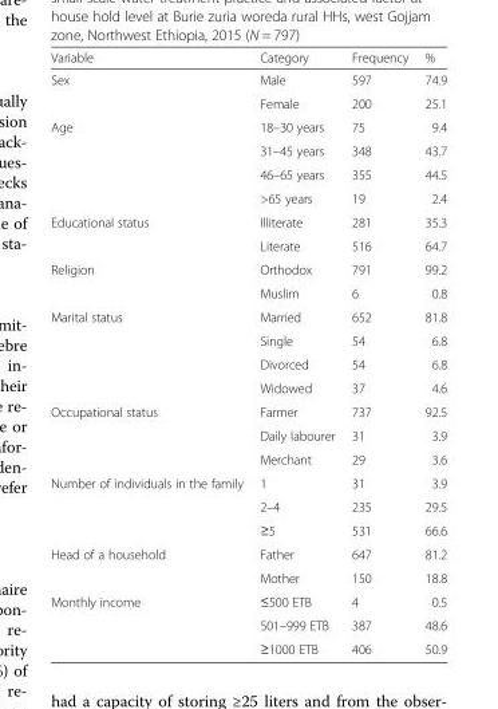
<table><thead><tr><td>Variable</td><td>Category</td><td>Frequency</td><td>%</td></tr></thead><tbody><tr><td rowspan="2">Sex</td><td>Male</td><td>597</td><td>74.9</td></tr><tr><td>Female</td><td>200</td><td>25.1</td></tr><tr><td rowspan="4">Age</td><td>18–30 years</td><td>75</td><td>9.4</td></tr><tr><td>31–45 years</td><td>348</td><td>43.7</td></tr><tr><td>46–65 years</td><td>355</td><td>44.5</td></tr><tr><td>&gt;65 years</td><td>19</td><td>2.4</td></tr><tr><td rowspan="2">Educational status</td><td>Illiterate</td><td>281</td><td>35.3</td></tr><tr><td>Literate</td><td>516</td><td>64.7</td></tr><tr><td rowspan="2">Religion</td><td>Orthodox</td><td>791</td><td>99.2</td></tr><tr><td>Muslim</td><td>6</td><td>0.8</td></tr><tr><td rowspan="4">Marital status</td><td>Married</td><td>652</td><td>81.8</td></tr><tr><td>Single</td><td>54</td><td>6.8</td></tr><tr><td>Divorced</td><td>54</td><td>6.8</td></tr><tr><td>Widowed</td><td>37</td><td>4.6</td></tr><tr><td rowspan="3">Occupational status</td><td>Farmer</td><td>737</td><td>92.5</td></tr><tr><td>Daily labourer</td><td>31</td><td>3.9</td></tr><tr><td>Merchant</td><td>29</td><td>3.6</td></tr><tr><td rowspan="3">Number of individuals in the family</td><td>1</td><td>31</td><td>3.9</td></tr><tr><td>2–4</td><td>235</td><td>29.5</td></tr><tr><td>≥5</td><td>531</td><td>66.6</td></tr><tr><td rowspan="2">Head of a household</td><td>Father</td><td>647</td><td>81.2</td></tr><tr><td>Mother</td><td>150</td><td>18.8</td></tr><tr><td rowspan="3">Monthly income</td><td>≤500 ETB</td><td>4</td><td>0.5</td></tr><tr><td>501–999 ETB</td><td>387</td><td>48.6</td></tr><tr><td>≥1000 ETB</td><td>406</td><td>50.9</td></tr></tbody></table>